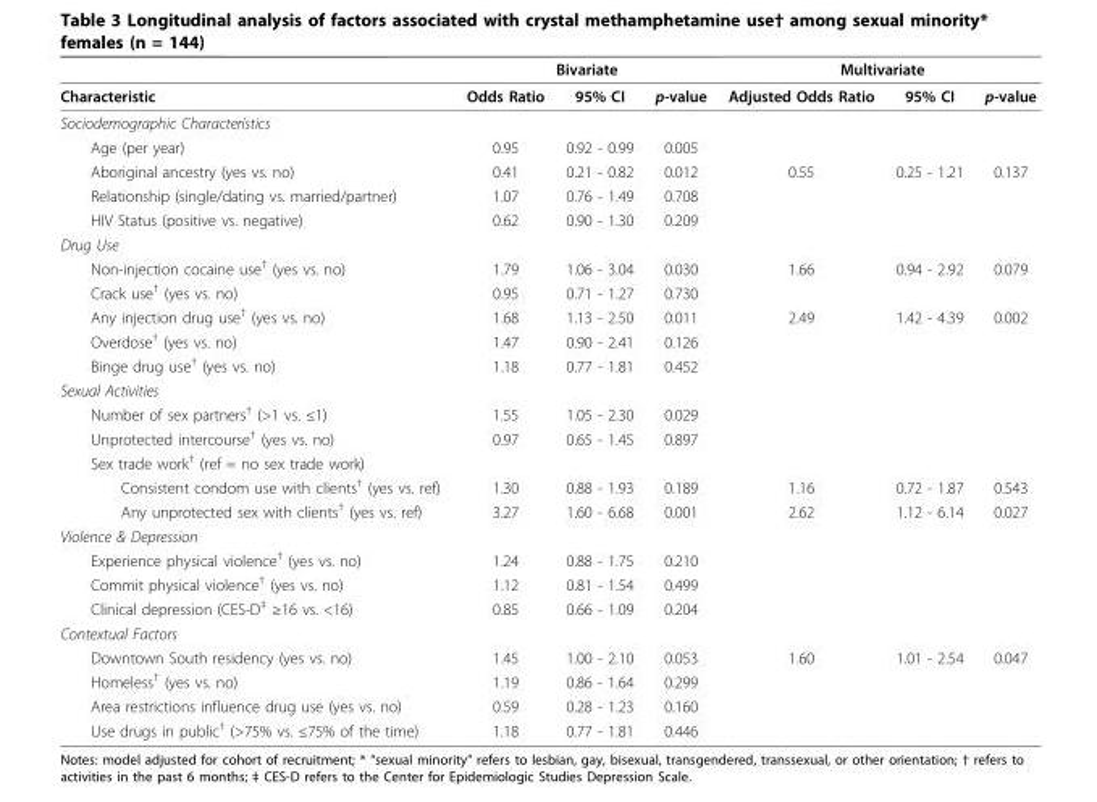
<table><thead><tr><td rowspan="2">Characteristic</td><td colspan="3">Bivariate</td><td colspan="3">Multivariate</td></tr><tr><td>Odds Ratio</td><td>95% CI</td><td>p-value</td><td>Adjusted Odds Ratio</td><td>95% CI</td><td>p-value</td></tr></thead><tbody><tr><td colspan="7">Sociodemographic Characteristics</td></tr><tr><td>Age (per year)</td><td>0.95</td><td>0.92 - 0.99</td><td>0.005</td><td></td><td></td><td></td></tr><tr><td>Aboriginal ancestry (yes vs. no)</td><td>0.41</td><td>0.21 - 0.82</td><td>0.012</td><td>0.55</td><td>0.25 - 1.21</td><td>0.137</td></tr><tr><td>Relationship (single/dating vs. married/partner)</td><td>1.07</td><td>0.76 - 1.49</td><td>0.708</td><td></td><td></td><td></td></tr><tr><td>HIV Status (positive vs. negative)</td><td>0.62</td><td>0.90 - 1.30</td><td>0.209</td><td></td><td></td><td></td></tr><tr><td colspan="7">Drug Use</td></tr><tr><td>Non-injection cocaine use<sup>†</sup> (yes vs. no)</td><td>1.79</td><td>1.06 - 3.04</td><td>0.030</td><td>1.66</td><td>0.94 - 2.92</td><td>0.079</td></tr><tr><td>Crack use<sup>†</sup> (yes vs. no)</td><td>0.95</td><td>0.71 - 1.27</td><td>0.730</td><td></td><td></td><td></td></tr><tr><td>Any injection drug use<sup>†</sup> (yes vs. no)</td><td>1.68</td><td>1.13 - 2.50</td><td>0.011</td><td>2.49</td><td>1.42 - 4.39</td><td>0.002</td></tr><tr><td>Overdose<sup>†</sup> (yes vs. no)</td><td>1.47</td><td>0.90 - 2.41</td><td>0.126</td><td></td><td></td><td></td></tr><tr><td>Binge drug use<sup>†</sup> (yes vs. no)</td><td>1.18</td><td>0.77 - 1.81</td><td>0.452</td><td></td><td></td><td></td></tr><tr><td colspan="7">Sexual Activities</td></tr><tr><td>Number of sex partners<sup>†</sup> (&gt;1 vs. ≤1)</td><td>1.55</td><td>1.05 - 2.30</td><td>0.029</td><td></td><td></td><td></td></tr><tr><td>Unprotected intercourse<sup>†</sup> (yes vs. no)</td><td>0.97</td><td>0.65 - 1.45</td><td>0.897</td><td></td><td></td><td></td></tr><tr><td colspan="7">Sex trade work<sup>†</sup> (ref = no sex trade work)</td></tr><tr><td>Consistent condom use with clients<sup>†</sup> (yes vs. ref)</td><td>1.30</td><td>0.88 - 1.93</td><td>0.189</td><td>1.16</td><td>0.72 - 1.87</td><td>0.543</td></tr><tr><td>Any unprotected sex with clients<sup>†</sup> (yes vs. ref)</td><td>3.27</td><td>1.60 - 6.68</td><td>0.001</td><td>2.62</td><td>1.12 - 6.14</td><td>0.027</td></tr><tr><td colspan="7">Violence &amp; Depression</td></tr><tr><td>Experience physical violence<sup>†</sup> (yes vs. no)</td><td>1.24</td><td>0.88 - 1.75</td><td>0.210</td><td></td><td></td><td></td></tr><tr><td>Commit physical violence<sup>†</sup> (yes vs. no)</td><td>1.12</td><td>0.81 - 1.54</td><td>0.499</td><td></td><td></td><td></td></tr><tr><td>Clinical depression (CES-D<sup>‡</sup> ≥16 vs. &lt;16)</td><td>0.85</td><td>0.66 - 1.09</td><td>0.204</td><td></td><td></td><td></td></tr><tr><td colspan="7">Contextual Factors</td></tr><tr><td>Downtown South residency (yes vs. no)</td><td>1.45</td><td>1.00 - 2.10</td><td>0.053</td><td>1.60</td><td>1.01 - 2.54</td><td>0.047</td></tr><tr><td>Homeless<sup>†</sup> (yes vs. no)</td><td>1.19</td><td>0.86 - 1.64</td><td>0.299</td><td></td><td></td><td></td></tr><tr><td>Area restrictions influence drug use (yes vs. no)</td><td>0.59</td><td>0.28 - 1.23</td><td>0.160</td><td></td><td></td><td></td></tr><tr><td>Use drugs in public<sup>†</sup> (&gt;75% vs. ≤75% of the time)</td><td>1.18</td><td>0.77 - 1.81</td><td>0.446</td><td></td><td></td><td></td></tr></tbody></table>